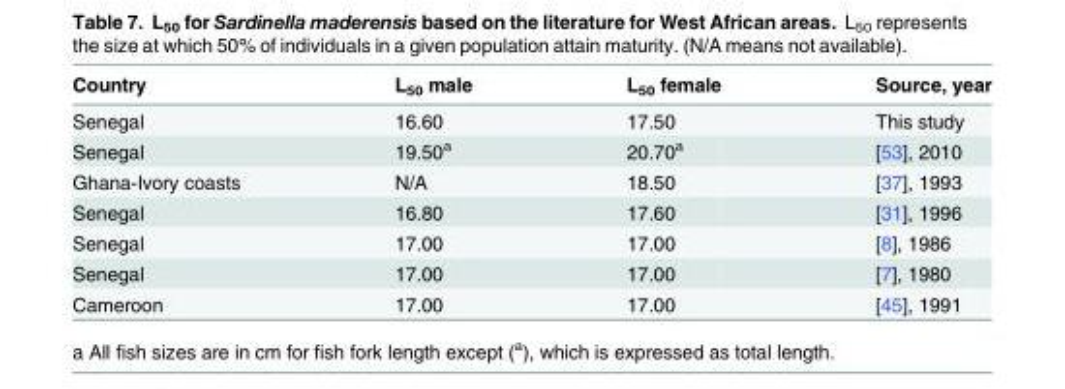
<table><thead><tr><td>Country</td><td>L<sub>50</sub> male</td><td>L<sub>50</sub> female</td><td>Source, year</td></tr></thead><tbody><tr><td>Senegal</td><td>16.60</td><td>17.50</td><td>This study</td></tr><tr><td>Senegal</td><td>19.50<sup>a</sup></td><td>20.70<sup>a</sup></td><td>[53], 2010</td></tr><tr><td>Ghana-Ivory coasts</td><td>N/A</td><td>18.50</td><td>[37], 1993</td></tr><tr><td>Senegal</td><td>16.80</td><td>17.60</td><td>[31], 1996</td></tr><tr><td>Senegal</td><td>17.00</td><td>17.00</td><td>[8], 1986</td></tr><tr><td>Senegal</td><td>17.00</td><td>17.00</td><td>[7], 1980</td></tr><tr><td>Cameroon</td><td>17.00</td><td>17.00</td><td>[45], 1991</td></tr></tbody></table>